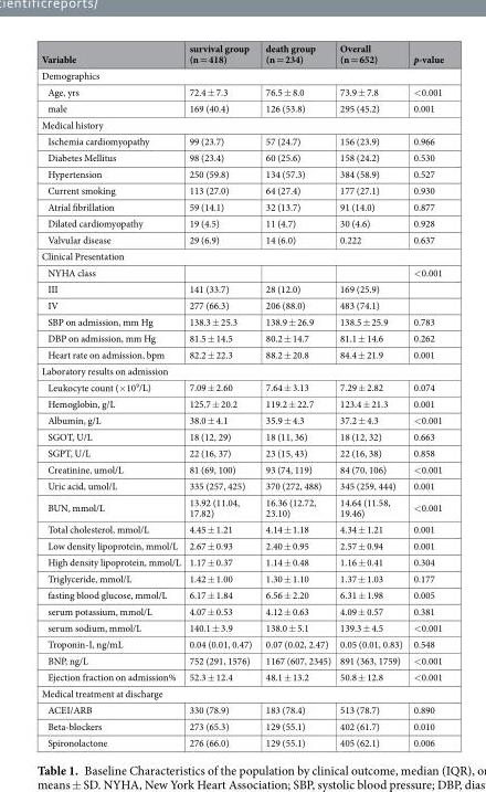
<table><thead><tr><td>Variable</td><td>survival group (n = 418)</td><td>death group (n = 234)</td><td>Overall (n = 652)</td><td>p-value</td></tr></thead><tbody><tr><td colspan="5">Demographics</td></tr><tr><td>Age, yrs</td><td>72.4 ± 7.3</td><td>76.5 ± 8.0</td><td>73.9 ± 7.8</td><td>&lt;0.001</td></tr><tr><td>male</td><td>169 (40.4)</td><td>126 (53.8)</td><td>295 (45.2)</td><td>0.001</td></tr><tr><td colspan="5">Medical history</td></tr><tr><td>Ischemia cardiomyopathy</td><td>99 (23.7)</td><td>57 (24.7)</td><td>156 (23.9)</td><td>0.966</td></tr><tr><td>Diabetes Mellitus</td><td>98 (23.4)</td><td>60 (25.6)</td><td>158 (24.2)</td><td>0.530</td></tr><tr><td>Hypertension</td><td>250 (59.8)</td><td>134 (57.3)</td><td>384 (58.9)</td><td>0.527</td></tr><tr><td>Current smoking</td><td>113 (27.0)</td><td>64 (27.4)</td><td>177 (27.1)</td><td>0.930</td></tr><tr><td>Atrial fibrillation</td><td>59 (14.1)</td><td>32 (13.7)</td><td>91 (14.0)</td><td>0.877</td></tr><tr><td>Dilated cardiomyopathy</td><td>19 (4.5)</td><td>11 (4.7)</td><td>30 (4.6)</td><td>0.928</td></tr><tr><td>Valvular disease</td><td>29 (6.9)</td><td>14 (6.0)</td><td>0.222</td><td>0.637</td></tr><tr><td colspan="5">Clinical Presentation</td></tr><tr><td>NYHA class</td><td></td><td></td><td></td><td>&lt;0.001</td></tr><tr><td>III</td><td>141 (33.7)</td><td>28 (12.0)</td><td>169 (25.9)</td><td></td></tr><tr><td>IV</td><td>277 (66.3)</td><td>206 (88.0)</td><td>483 (74.1)</td><td></td></tr><tr><td>SBP on admission, mm Hg</td><td>138.3 ± 25.3</td><td>138.9 ± 26.9</td><td>138.5 ± 25.9</td><td>0.783</td></tr><tr><td>DBP on admission, mm Hg</td><td>81.5 ± 14.5</td><td>80.2 ± 14.7</td><td>81.1 ± 14.6</td><td>0.262</td></tr><tr><td>Heart rate on admission, bpm</td><td>82.2 ± 22.3</td><td>88.2 ± 20.8</td><td>84.4 ± 21.9</td><td>0.001</td></tr><tr><td colspan="5">Laboratory results on admission</td></tr><tr><td>Leukocyte count (×10<sup>9</sup>/L)</td><td>7.09 ± 2.60</td><td>7.64 ± 3.13</td><td>7.29 ± 2.82</td><td>0.074</td></tr><tr><td>Hemoglobin, g/L</td><td>125.7 ± 20.2</td><td>119.2 ± 22.7</td><td>123.4 ± 21.3</td><td>0.001</td></tr><tr><td>Albumin, g/L</td><td>38.0 ± 4.1</td><td>35.9 ± 4.3</td><td>37.2 ± 4.3</td><td>&lt;0.001</td></tr><tr><td>SGOT, U/L</td><td>18 (12, 29)</td><td>18 (11, 36)</td><td>18 (12, 32)</td><td>0.663</td></tr><tr><td>SGPT, U/L</td><td>22 (16, 37)</td><td>23 (15, 43)</td><td>22 (16, 38)</td><td>0.858</td></tr><tr><td>Creatinine, umol/L</td><td>81 (69, 100)</td><td>93 (74, 119)</td><td>84 (70, 106)</td><td>&lt;0.001</td></tr><tr><td>Uric acid, umol/L</td><td>335 (257, 425)</td><td>370 (272, 488)</td><td>345 (259, 444)</td><td>0.001</td></tr><tr><td>BUN, mmol/L</td><td>13.92 (11.04, 17.82)</td><td>16.36 (12.72, 23.10)</td><td>14.64 (11.58, 19.46)</td><td>&lt;0.001</td></tr><tr><td>Total cholesterol, mmol/L</td><td>4.45 ± 1.21</td><td>4.14 ± 1.18</td><td>4.34 ± 1.21</td><td>0.001</td></tr><tr><td>Low density lipoprotein, mmol/L</td><td>2.67 ± 0.93</td><td>2.40 ± 0.95</td><td>2.57 ± 0.94</td><td>0.001</td></tr><tr><td>High density lipoprotein, mmol/L</td><td>1.17 ± 0.37</td><td>1.14 ± 0.48</td><td>1.16 ± 0.41</td><td>0.304</td></tr><tr><td>Triglyceride, mmol/L</td><td>1.42 ± 1.00</td><td>1.30 ± 1.10</td><td>1.37 ± 1.03</td><td>0.177</td></tr><tr><td>fasting blood glucose, mmol/L</td><td>6.17 ± 1.84</td><td>6.56 ± 2.20</td><td>6.31 ± 1.98</td><td>0.005</td></tr><tr><td>serum potassium, mmol/L</td><td>4.07 ± 0.53</td><td>4.12 ± 0.63</td><td>4.09 ± 0.57</td><td>0.381</td></tr><tr><td>serum sodium, mmol/L</td><td>140.1 ± 3.9</td><td>138.0 ± 5.1</td><td>139.3 ± 4.5</td><td>&lt;0.001</td></tr><tr><td>Troponin-I, ng/mL</td><td>0.04 (0.01, 0.47)</td><td>0.07 (0.02, 2.47)</td><td>0.05 (0.01, 0.83)</td><td>0.548</td></tr><tr><td>BNP, ng/L</td><td>752 (291, 1576)</td><td>1167 (607, 2345)</td><td>891 (363, 1759)</td><td>&lt;0.001</td></tr><tr><td>Ejection fraction on admission%</td><td>52.3 ± 12.4</td><td>48.1 ± 13.2</td><td>50.8 ± 12.8</td><td>&lt;0.001</td></tr><tr><td colspan="5">Medical treatment at discharge</td></tr><tr><td>ACEI/ARB</td><td>330 (78.9)</td><td>183 (78.4)</td><td>513 (78.7)</td><td>0.890</td></tr><tr><td>Beta-blockers</td><td>273 (65.3)</td><td>129 (55.1)</td><td>402 (61.7)</td><td>0.010</td></tr><tr><td>Spironolactone</td><td>276 (66.0)</td><td>129 (55.1)</td><td>405 (62.1)</td><td>0.006</td></tr></tbody></table>